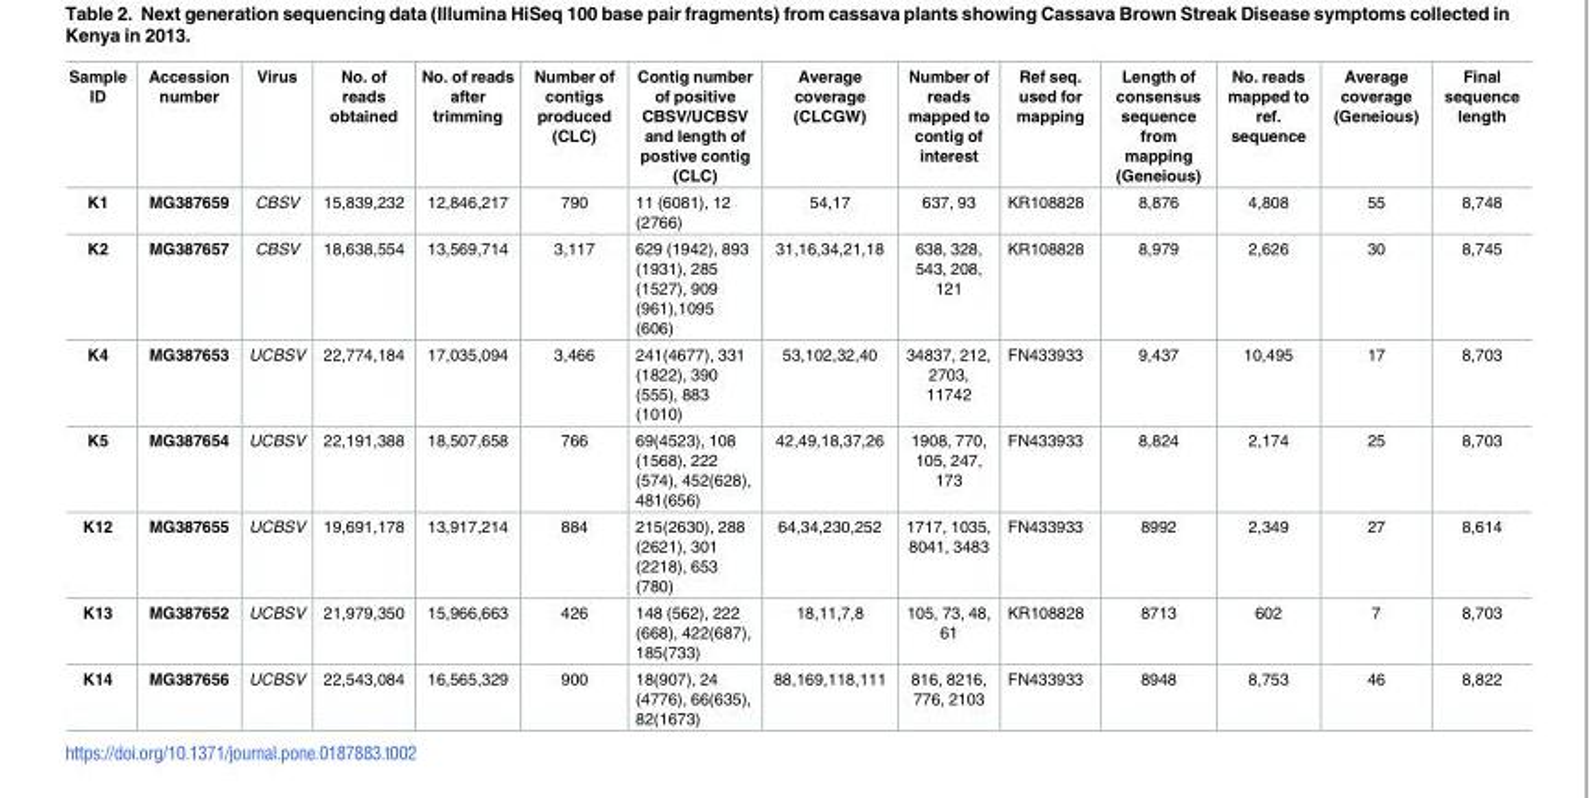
<table><thead><tr><td>Sample ID</td><td>Accession number</td><td>Virus</td><td>No. of reads obtained</td><td>No. of reads after trimming</td><td>Number of contigs produced (CLC)</td><td>Contig number of positive CBSV/UCBSV and length of postive contig (CLC)</td><td>Average coverage (CLCGW)</td><td>Number of reads mapped to contig of interest</td><td>Ref seq. used for mapping</td><td>Length of consensus sequence from mapping (Geneious)</td><td>No. reads mapped to ref. sequence</td><td>Average coverage (Geneious)</td><td>Final sequence length</td></tr></thead><tbody><tr><td>K1</td><td>MG387659</td><td>CBSV</td><td>15,839,232</td><td>12,846,217</td><td>790</td><td>11 (6081), 12 (2766)</td><td>54,17</td><td>637, 93</td><td>KR108828</td><td>8,876</td><td>4,808</td><td>55</td><td>8,748</td></tr><tr><td>K2</td><td>MG387657</td><td>CBSV</td><td>18,638,554</td><td>13,569,714</td><td>3,117</td><td>629 (1942), 893 (1931), 285 (1527), 909 (961),1095 (606)</td><td>31,16,34,21,18</td><td>638, 328, 543, 208, 121</td><td>KR108828</td><td>8,979</td><td>2,626</td><td>30</td><td>8,745</td></tr><tr><td>K4</td><td>MG387653</td><td>UCBSV</td><td>22,774,184</td><td>17,035,094</td><td>3,466</td><td>241(4677), 331 (1822), 390 (555), 883 (1010)</td><td>53,102,32,40</td><td>34837, 212, 2703, 11742</td><td>FN433933</td><td>9,437</td><td>10,495</td><td>17</td><td>8,703</td></tr><tr><td>K5</td><td>MG387654</td><td>UCBSV</td><td>22,191,388</td><td>18,507,658</td><td>766</td><td>69(4523), 108 (1568), 222 (574), 452(628), 481(656)</td><td>42,49,18,37,26</td><td>1908, 770, 105, 247, 173</td><td>FN433933</td><td>8,824</td><td>2,174</td><td>25</td><td>8,703</td></tr><tr><td>K12</td><td>MG387655</td><td>UCBSV</td><td>19,691,178</td><td>13,917,214</td><td>884</td><td>215(2630), 288 (2621), 301 (2218), 653 (780)</td><td>64,34,230,252</td><td>1717, 1035, 8041, 3483</td><td>FN433933</td><td>8992</td><td>2,349</td><td>27</td><td>8,614</td></tr><tr><td>K13</td><td>MG387652</td><td>UCBSV</td><td>21,979,350</td><td>15,966,663</td><td>426</td><td>148 (562), 222 (668), 422(687), 185(733)</td><td>18,11,7,8</td><td>105, 73, 48, 61</td><td>KR108828</td><td>8713</td><td>602</td><td>7</td><td>8,703</td></tr><tr><td>K14</td><td>MG387656</td><td>UCBSV</td><td>22,543,084</td><td>16,565,329</td><td>900</td><td>18(907), 24 (4776), 66(635), 82(1673)</td><td>88,169,118,111</td><td>816, 8216, 776, 2103</td><td>FN433933</td><td>8948</td><td>8,753</td><td>46</td><td>8,822</td></tr></tbody></table>